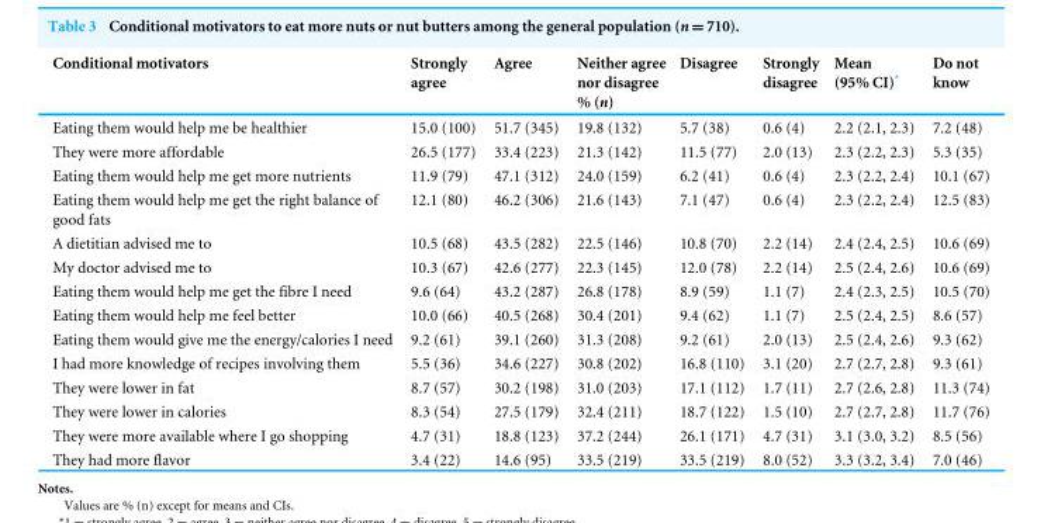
<table><thead><tr><td rowspan="2">Conditional motivators</td><td rowspan="2">Strongly agree</td><td rowspan="2">Agree</td><td rowspan="2">Neither agree nor disagree % (n)</td><td rowspan="2">Disagree</td><td rowspan="2">Strongly disagree</td><td rowspan="2">Mean (95% CI)*</td><td rowspan="2">Do not know</td></tr><tr></tr></thead><tbody><tr><td>Eating them would help me be healthier</td><td>15.0 (100)</td><td>51.7 (345)</td><td>19.8 (132)</td><td>5.7 (38)</td><td>0.6 (4)</td><td>2.2 (2.1, 2.3)</td><td>7.2 (48)</td></tr><tr><td>They were more affordable</td><td>26.5 (177)</td><td>33.4 (223)</td><td>21.3 (142)</td><td>11.5 (77)</td><td>2.0 (13)</td><td>2.3 (2.2, 2.3)</td><td>5.3 (35)</td></tr><tr><td>Eating them would help me get more nutrients</td><td>11.9 (79)</td><td>47.1 (312)</td><td>24.0 (159)</td><td>6.2 (41)</td><td>0.6 (4)</td><td>2.3 (2.2, 2.4)</td><td>10.1 (67)</td></tr><tr><td>Eating them would help me get the right balance of good fats</td><td>12.1 (80)</td><td>46.2 (306)</td><td>21.6 (143)</td><td>7.1 (47)</td><td>0.6 (4)</td><td>2.3 (2.2, 2.4)</td><td>12.5 (83)</td></tr><tr><td>A dietitian advised me to</td><td>10.5 (68)</td><td>43.5 (282)</td><td>22.5 (146)</td><td>10.8 (70)</td><td>2.2 (14)</td><td>2.4 (2.4, 2.5)</td><td>10.6 (69)</td></tr><tr><td>My doctor advised me to</td><td>10.3 (67)</td><td>42.6 (277)</td><td>22.3 (145)</td><td>12.0 (78)</td><td>2.2 (14)</td><td>2.5 (2.4, 2.6)</td><td>10.6 (69)</td></tr><tr><td>Eating them would help me get the fibre I need</td><td>9.6 (64)</td><td>43.2 (287)</td><td>26.8 (178)</td><td>8.9 (59)</td><td>1.1 (7)</td><td>2.4 (2.3, 2.5)</td><td>10.5 (70)</td></tr><tr><td>Eating them would help me feel better</td><td>10.0 (66)</td><td>40.5 (268)</td><td>30.4 (201)</td><td>9.4 (62)</td><td>1.1 (7)</td><td>2.5 (2.4, 2.5)</td><td>8.6 (57)</td></tr><tr><td>Eating them would give me the energy/calories I need</td><td>9.2 (61)</td><td>39.1 (260)</td><td>31.3 (208)</td><td>9.2 (61)</td><td>2.0 (13)</td><td>2.5 (2.4, 2.6)</td><td>9.3 (62)</td></tr><tr><td>I had more knowledge of recipes involving them</td><td>5.5 (36)</td><td>34.6 (227)</td><td>30.8 (202)</td><td>16.8 (110)</td><td>3.1 (20)</td><td>2.7 (2.7, 2.8)</td><td>9.3 (61)</td></tr><tr><td>They were lower in fat</td><td>8.7 (57)</td><td>30.2 (198)</td><td>31.0 (203)</td><td>17.1 (112)</td><td>1.7 (11)</td><td>2.7 (2.6, 2.8)</td><td>11.3 (74)</td></tr><tr><td>They were lower in calories</td><td>8.3 (54)</td><td>27.5 (179)</td><td>32.4 (211)</td><td>18.7 (122)</td><td>1.5 (10)</td><td>2.7 (2.7, 2.8)</td><td>11.7 (76)</td></tr><tr><td>They were more available where I go shopping</td><td>4.7 (31)</td><td>18.8 (123)</td><td>37.2 (244)</td><td>26.1 (171)</td><td>4.7 (31)</td><td>3.1 (3.0, 3.2)</td><td>8.5 (56)</td></tr><tr><td>They had more flavor</td><td>3.4 (22)</td><td>14.6 (95)</td><td>33.5 (219)</td><td>33.5 (219)</td><td>8.0 (52)</td><td>3.3 (3.2, 3.4)</td><td>7.0 (46)</td></tr></tbody></table>